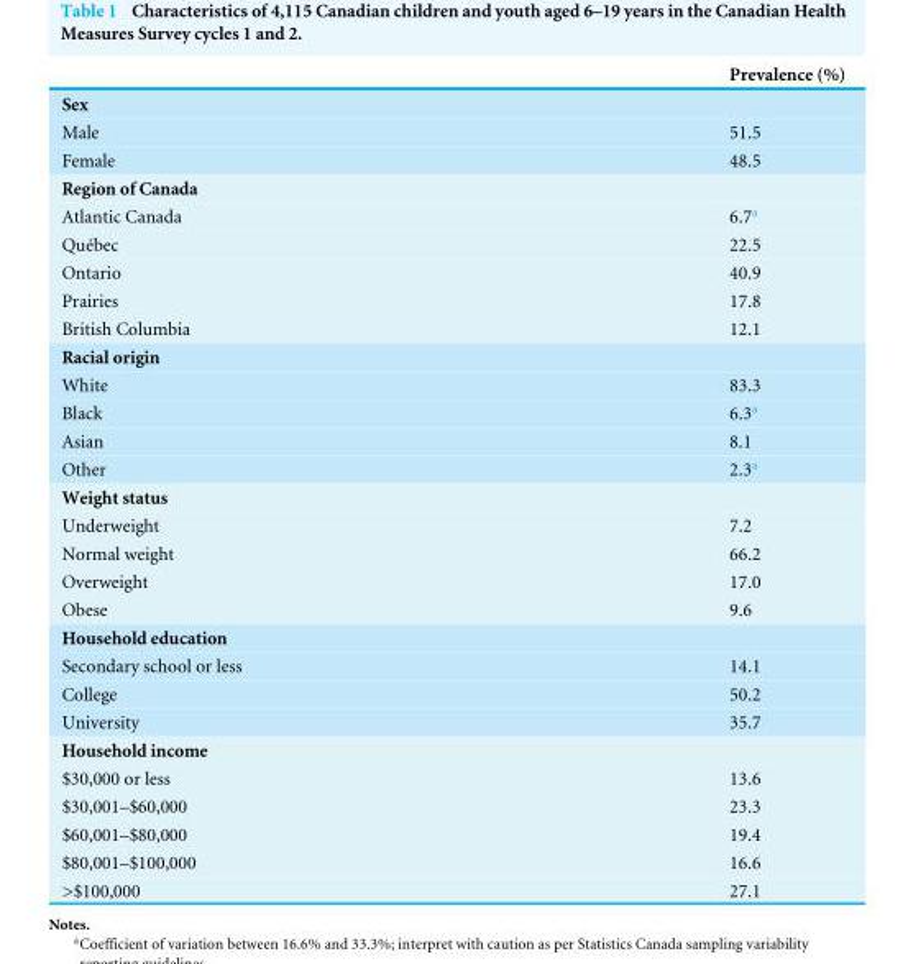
<table><thead><tr><td></td><td>Prevalence (%)</td></tr></thead><tbody><tr><td colspan="2">Sex</td></tr><tr><td>Male</td><td>51.5</td></tr><tr><td>Female</td><td>48.5</td></tr><tr><td colspan="2">Region of Canada</td></tr><tr><td>Atlantic Canada</td><td>6.7<sup>a</sup></td></tr><tr><td>Québec</td><td>22.5</td></tr><tr><td>Ontario</td><td>40.9</td></tr><tr><td>Prairies</td><td>17.8</td></tr><tr><td>British Columbia</td><td>12.1</td></tr><tr><td colspan="2">Racial origin</td></tr><tr><td>White</td><td>83.3</td></tr><tr><td>Black</td><td>6.3<sup>a</sup></td></tr><tr><td>Asian</td><td>8.1</td></tr><tr><td>Other</td><td>2.3<sup>a</sup></td></tr><tr><td colspan="2">Weight status</td></tr><tr><td>Underweight</td><td>7.2</td></tr><tr><td>Normal weight</td><td>66.2</td></tr><tr><td>Overweight</td><td>17.0</td></tr><tr><td>Obese</td><td>9.6</td></tr><tr><td colspan="2">Household education</td></tr><tr><td>Secondary school or less</td><td>14.1</td></tr><tr><td>College</td><td>50.2</td></tr><tr><td>University</td><td>35.7</td></tr><tr><td colspan="2">Household income</td></tr><tr><td>$30,000 or less</td><td>13.6</td></tr><tr><td>$30,001–$60,000</td><td>23.3</td></tr><tr><td>$60,001–$80,000</td><td>19.4</td></tr><tr><td>$80,001–$100,000</td><td>16.6</td></tr><tr><td>&gt;$100,000</td><td>27.1</td></tr></tbody></table>